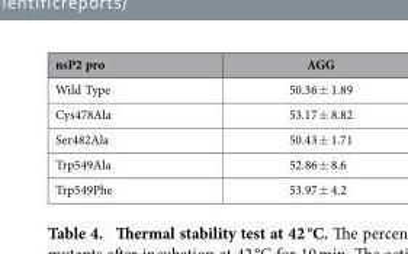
<table><thead><tr><td>nsP2 pro</td><td>AGG</td></tr></thead><tbody><tr><td>Wild Type</td><td>50.36 ± 1.89</td></tr><tr><td>Cys478Ala</td><td>53.17 ± 8.82</td></tr><tr><td>Ser482Ala</td><td>50.43 ± 1.71</td></tr><tr><td>Trp549Ala</td><td>52.86 ± 8.6</td></tr><tr><td>Trp549Phe</td><td>53.97 ± 4.2</td></tr></tbody></table>